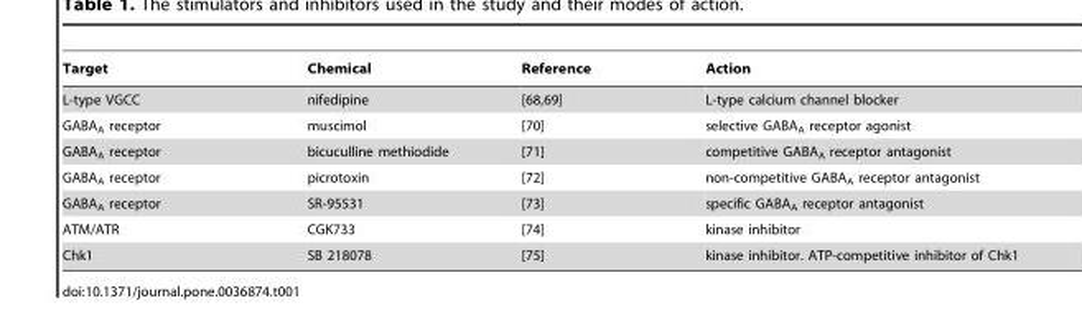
<table><thead><tr><td>Target</td><td>Chemical</td><td>Reference</td><td>Action</td></tr></thead><tbody><tr><td>L-type VGCC</td><td>nifedipine</td><td>[68,69]</td><td>L-type calcium channel blocker</td></tr><tr><td>GABA<sub>A</sub> receptor</td><td>muscimol</td><td>[70]</td><td>selective GABA<sub>A</sub> receptor agonist</td></tr><tr><td>GABA<sub>A</sub> receptor</td><td>bicuculline methiodide</td><td>[71]</td><td>competitive GABA<sub>A</sub> receptor antagonist</td></tr><tr><td>GABA<sub>A</sub> receptor</td><td>picrotoxin</td><td>[72]</td><td>non-competitive GABA<sub>A</sub> receptor antagonist</td></tr><tr><td>GABA<sub>A</sub> receptor</td><td>SR-95531</td><td>[73]</td><td>specific GABA<sub>A</sub> receptor antagonist</td></tr><tr><td>ATM/ATR</td><td>CGK733</td><td>[74]</td><td>kinase inhibitor</td></tr><tr><td>Chk1</td><td>SB 218078</td><td>[75]</td><td>kinase inhibitor. ATP-competitive inhibitor of Chk1</td></tr></tbody></table>